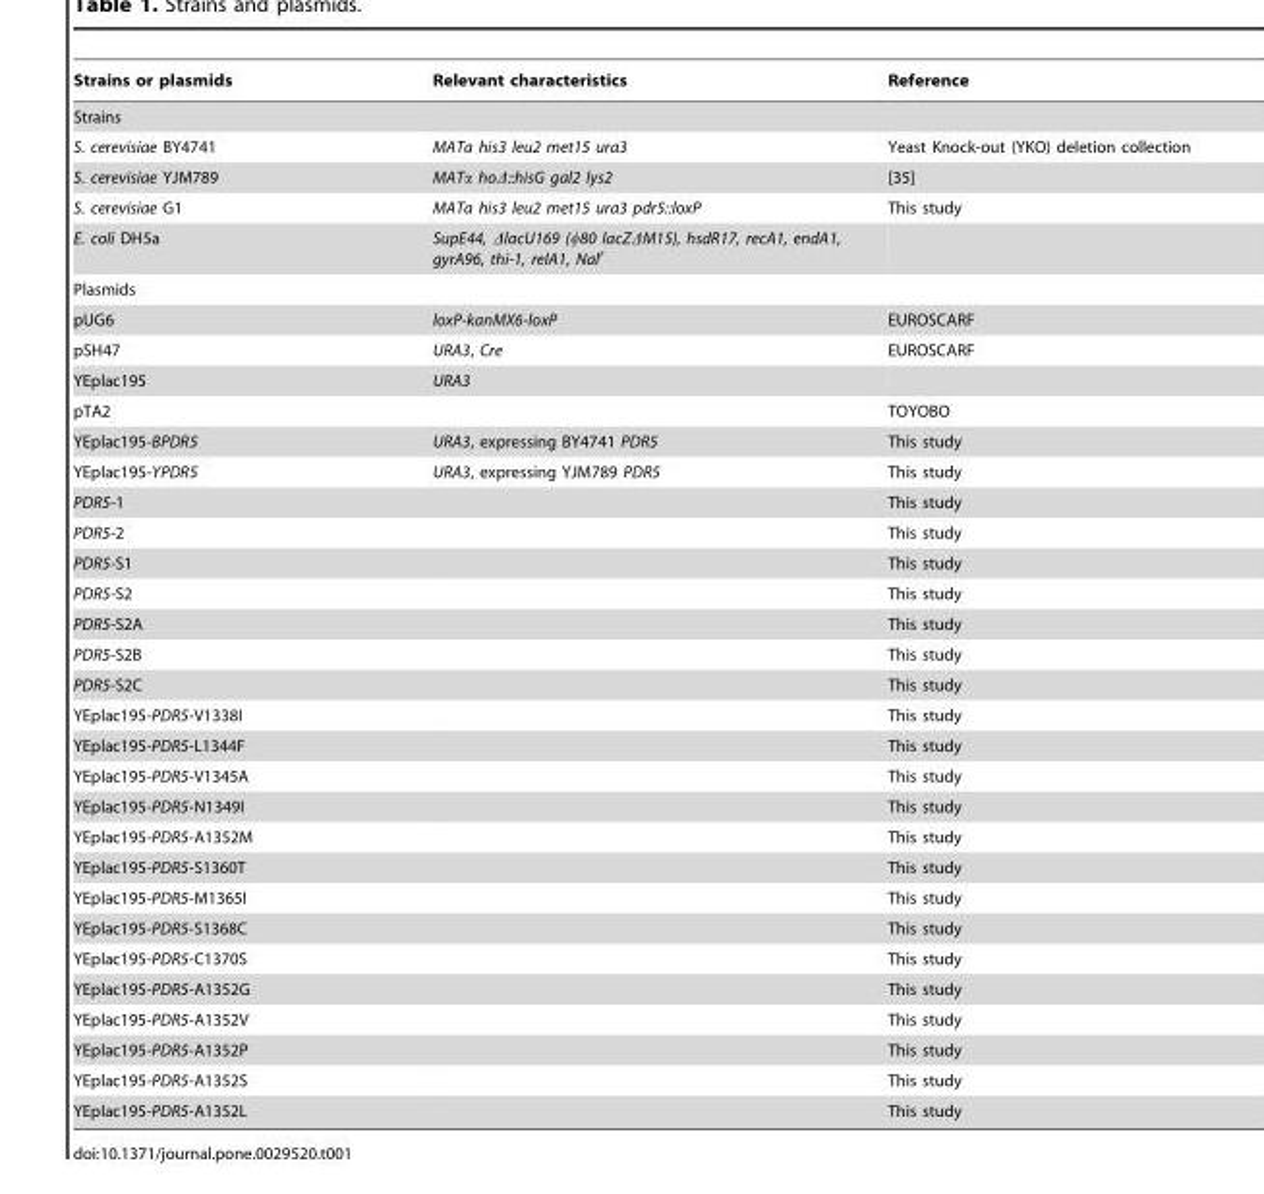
<table><thead><tr><td>Strains or plasmids</td><td>Relevant characteristics</td><td>Reference</td></tr></thead><tbody><tr><td colspan="3">Strains</td></tr><tr><td>S. cerevisiae BY4741</td><td>MATa his3 leu2 met15 ura3</td><td>Yeast Knock-out (YKO) deletion collection</td></tr><tr><td>S. cerevisiae YJM789</td><td>MATα hoΔ::hisG gal2 lys2</td><td>[35]</td></tr><tr><td>S. cerevisiae G1</td><td>MATa his3 leu2 met15 ura3 pdr5::loxP</td><td>This study</td></tr><tr><td>E. coli DH5a</td><td>SupE44, ΔlacU169 (φ80 lacZΔM15), hsdR17, recA1, endA1, gyrA96, thi-1, relA1, Nal<sup>r</sup></td><td></td></tr><tr><td colspan="3">Plasmids</td></tr><tr><td>pUG6</td><td>loxP-kanMX6-loxP</td><td>EUROSCARF</td></tr><tr><td>pSH47</td><td>URA3, Cre</td><td>EUROSCARF</td></tr><tr><td>YEplac195</td><td>URA3</td><td></td></tr><tr><td>pTA2</td><td></td><td>TOYOBO</td></tr><tr><td>YEplac195-BPDR5</td><td>URA3, expressing BY4741 PDR5</td><td>This study</td></tr><tr><td>YEplac195-YPDR5</td><td>URA3, expressing YJM789 PDR5</td><td>This study</td></tr><tr><td>PDR5-1</td><td></td><td>This study</td></tr><tr><td>PDR5-2</td><td></td><td>This study</td></tr><tr><td>PDR5-S1</td><td></td><td>This study</td></tr><tr><td>PDR5-S2</td><td></td><td>This study</td></tr><tr><td>PDR5-S2A</td><td></td><td>This study</td></tr><tr><td>PDR5-S2B</td><td></td><td>This study</td></tr><tr><td>PDR5-S2C</td><td></td><td>This study</td></tr><tr><td>YEplac195-PDR5-V1338I</td><td></td><td>This study</td></tr><tr><td>YEplac195-PDR5-L1344F</td><td></td><td>This study</td></tr><tr><td>YEplac195-PDR5-V1345A</td><td></td><td>This study</td></tr><tr><td>YEplac195-PDR5-N1349I</td><td></td><td>This study</td></tr><tr><td>YEplac195-PDR5-A1352M</td><td></td><td>This study</td></tr><tr><td>YEplac195-PDR5-S1360T</td><td></td><td>This study</td></tr><tr><td>YEplac195-PDR5-M1365I</td><td></td><td>This study</td></tr><tr><td>YEplac195-PDR5-S1368C</td><td></td><td>This study</td></tr><tr><td>YEplac195-PDR5-C1370S</td><td></td><td>This study</td></tr><tr><td>YEplac195-PDR5-A1352G</td><td></td><td>This study</td></tr><tr><td>YEplac195-PDR5-A1352V</td><td></td><td>This study</td></tr><tr><td>YEplac195-PDR5-A1352P</td><td></td><td>This study</td></tr><tr><td>YEplac195-PDR5-A1352S</td><td></td><td>This study</td></tr><tr><td>YEplac195-PDR5-A1352L</td><td></td><td>This study</td></tr></tbody></table>